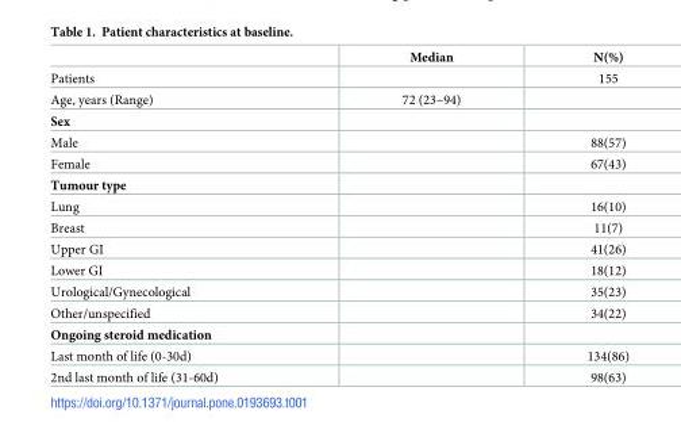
<table><thead><tr><td></td><td>Median</td><td>N(%)</td></tr></thead><tbody><tr><td>Patients</td><td></td><td>155</td></tr><tr><td>Age, years (Range)</td><td>72 (23–94)</td><td></td></tr><tr><td colspan="3">Sex</td></tr><tr><td>Male</td><td></td><td>88(57)</td></tr><tr><td>Female</td><td></td><td>67(43)</td></tr><tr><td colspan="3">Tumour type</td></tr><tr><td>Lung</td><td></td><td>16(10)</td></tr><tr><td>Breast</td><td></td><td>11(7)</td></tr><tr><td>Upper GI</td><td></td><td>41(26)</td></tr><tr><td>Lower GI</td><td></td><td>18(12)</td></tr><tr><td>Urological/Gynecological</td><td></td><td>35(23)</td></tr><tr><td>Other/unspecified</td><td></td><td>34(22)</td></tr><tr><td colspan="3">Ongoing steroid medication</td></tr><tr><td>Last month of life (0-30d)</td><td></td><td>134(86)</td></tr><tr><td>2nd last month of life (31-60d)</td><td></td><td>98(63)</td></tr></tbody></table>